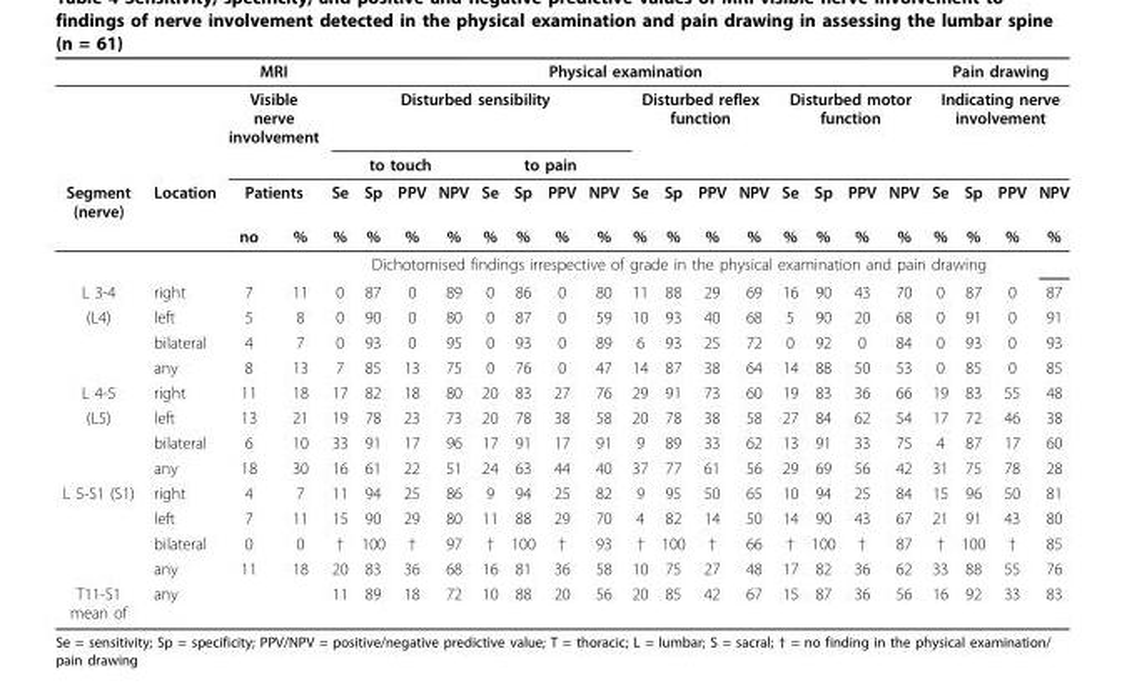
<table><thead><tr><td rowspan="4">Segment (nerve)</td><td rowspan="4">Location</td><td rowspan="2" colspan="2">MRI Visible nerve involvement</td><td colspan="16">Physical examination</td><td rowspan="2" colspan="4">Pain drawing Indicating nerve involvement</td></tr><tr><td colspan="8">Disturbed sensibility</td><td colspan="4">Disturbed reflex function</td><td colspan="4">Disturbed motor function</td></tr><tr><td></td><td></td><td colspan="4">to touch</td><td colspan="4">to pain</td><td rowspan="2">Se</td><td rowspan="2">Sp</td><td rowspan="2">PPV</td><td rowspan="2">NPV</td><td rowspan="2">Se</td><td rowspan="2">Sp</td><td rowspan="2">PPV</td><td rowspan="2">NPV</td><td rowspan="2">Se</td><td rowspan="2">Sp</td><td rowspan="2">PPV</td><td rowspan="2">NPV</td></tr><tr><td colspan="2">Patients</td><td>Se</td><td>Sp</td><td>PPV</td><td>NPV</td><td>Se</td><td>Sp</td><td>PPV</td><td>NPV</td></tr></thead><tbody><tr><td></td><td></td><td>no</td><td>%</td><td>%</td><td>%</td><td>%</td><td>%</td><td>%</td><td>%</td><td>%</td><td>%</td><td>%</td><td>%</td><td>%</td><td>%</td><td>%</td><td>%</td><td>%</td><td>%</td><td>%</td><td>%</td><td>%</td><td>%</td></tr><tr><td></td><td></td><td></td><td></td><td colspan="19">Dichotomised findings irrespective of grade in the physical examination and pain drawing</td><td></td></tr><tr><td rowspan="4">L 3-4 (L4)</td><td>right</td><td>7</td><td>11</td><td>0</td><td>87</td><td>0</td><td>89</td><td>0</td><td>86</td><td>0</td><td>80</td><td>11</td><td>88</td><td>29</td><td>69</td><td>16</td><td>90</td><td>43</td><td>70</td><td>0</td><td>87</td><td>0</td><td>87</td></tr><tr><td>left</td><td>5</td><td>8</td><td>0</td><td>90</td><td>0</td><td>80</td><td>0</td><td>87</td><td>0</td><td>59</td><td>10</td><td>93</td><td>40</td><td>68</td><td>5</td><td>90</td><td>20</td><td>68</td><td>0</td><td>91</td><td>0</td><td>91</td></tr><tr><td>bilateral</td><td>4</td><td>7</td><td>0</td><td>93</td><td>0</td><td>95</td><td>0</td><td>93</td><td>0</td><td>89</td><td>6</td><td>93</td><td>25</td><td>72</td><td>0</td><td>92</td><td>0</td><td>84</td><td>0</td><td>93</td><td>0</td><td>93</td></tr><tr><td>any</td><td>8</td><td>13</td><td>7</td><td>85</td><td>13</td><td>75</td><td>0</td><td>76</td><td>0</td><td>47</td><td>14</td><td>87</td><td>38</td><td>64</td><td>14</td><td>88</td><td>50</td><td>53</td><td>0</td><td>85</td><td>0</td><td>85</td></tr><tr><td rowspan="4">L 4-5 (L5)</td><td>right</td><td>11</td><td>18</td><td>17</td><td>82</td><td>18</td><td>80</td><td>20</td><td>83</td><td>27</td><td>76</td><td>29</td><td>91</td><td>73</td><td>60</td><td>19</td><td>83</td><td>36</td><td>66</td><td>19</td><td>83</td><td>55</td><td>48</td></tr><tr><td>left</td><td>13</td><td>21</td><td>19</td><td>78</td><td>23</td><td>73</td><td>20</td><td>78</td><td>38</td><td>58</td><td>20</td><td>78</td><td>38</td><td>58</td><td>27</td><td>84</td><td>62</td><td>54</td><td>17</td><td>72</td><td>46</td><td>38</td></tr><tr><td>bilateral</td><td>6</td><td>10</td><td>33</td><td>91</td><td>17</td><td>96</td><td>17</td><td>91</td><td>17</td><td>91</td><td>9</td><td>89</td><td>33</td><td>62</td><td>13</td><td>91</td><td>33</td><td>75</td><td>4</td><td>87</td><td>17</td><td>60</td></tr><tr><td>any</td><td>18</td><td>30</td><td>16</td><td>61</td><td>22</td><td>51</td><td>24</td><td>63</td><td>44</td><td>40</td><td>37</td><td>77</td><td>61</td><td>56</td><td>29</td><td>69</td><td>56</td><td>42</td><td>31</td><td>75</td><td>78</td><td>28</td></tr><tr><td rowspan="4">L 5-S1 (S1)</td><td>right</td><td>4</td><td>7</td><td>11</td><td>94</td><td>25</td><td>86</td><td>9</td><td>94</td><td>25</td><td>82</td><td>9</td><td>95</td><td>50</td><td>65</td><td>10</td><td>94</td><td>25</td><td>84</td><td>15</td><td>96</td><td>50</td><td>81</td></tr><tr><td>left</td><td>7</td><td>11</td><td>15</td><td>90</td><td>29</td><td>80</td><td>11</td><td>88</td><td>29</td><td>70</td><td>4</td><td>82</td><td>14</td><td>50</td><td>14</td><td>90</td><td>43</td><td>67</td><td>21</td><td>91</td><td>43</td><td>80</td></tr><tr><td>bilateral</td><td>0</td><td>0</td><td>†</td><td>100</td><td>†</td><td>97</td><td>†</td><td>100</td><td>†</td><td>93</td><td>†</td><td>100</td><td>†</td><td>66</td><td>†</td><td>100</td><td>†</td><td>87</td><td>†</td><td>100</td><td>†</td><td>85</td></tr><tr><td>any</td><td>11</td><td>18</td><td>20</td><td>83</td><td>36</td><td>68</td><td>16</td><td>81</td><td>36</td><td>58</td><td>10</td><td>75</td><td>27</td><td>48</td><td>17</td><td>82</td><td>36</td><td>62</td><td>33</td><td>88</td><td>55</td><td>76</td></tr><tr><td>T11-S1 mean of</td><td>any</td><td></td><td></td><td>11</td><td>89</td><td>18</td><td>72</td><td>10</td><td>88</td><td>20</td><td>56</td><td>20</td><td>85</td><td>42</td><td>67</td><td>15</td><td>87</td><td>36</td><td>56</td><td>16</td><td>92</td><td>33</td><td>83</td></tr></tbody></table>